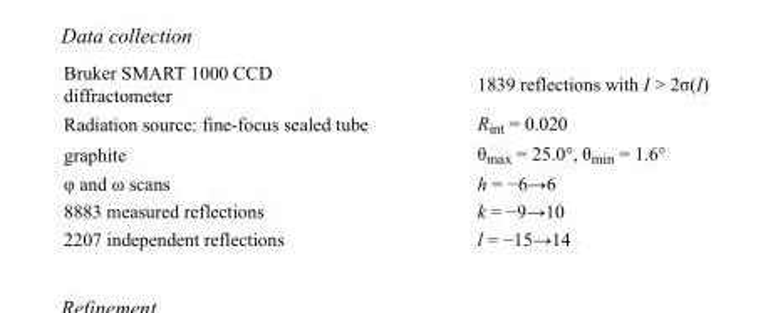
<table><tbody><tr><td>Bruker SMART 1000 CCD diffractometer</td><td>1839 reflections with I &gt; 2σ(I)</td></tr><tr><td>Radiation source: fine-focus sealed tube</td><td>R<sub>int</sub> = 0.020</td></tr><tr><td>graphite</td><td>θ<sub>max</sub> = 25.0°, θ<sub>min</sub> = 1.6°</td></tr><tr><td>φ and ω scans</td><td>h = −6→6</td></tr><tr><td>8883 measured reflections</td><td>k = −9→10</td></tr><tr><td>2207 independent reflections</td><td>l = −15→14</td></tr></tbody></table>